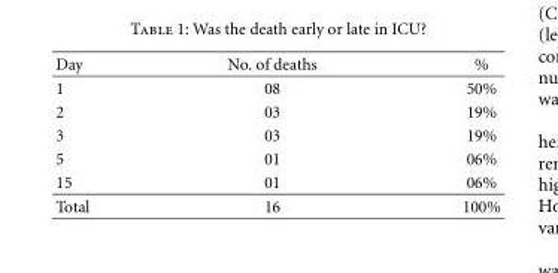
<table><thead><tr><td>Day</td><td>No. of deaths</td><td>%</td></tr></thead><tbody><tr><td>1</td><td>08</td><td>50%</td></tr><tr><td>2</td><td>03</td><td>19%</td></tr><tr><td>3</td><td>03</td><td>19%</td></tr><tr><td>5</td><td>01</td><td>06%</td></tr><tr><td>15</td><td>01</td><td>06%</td></tr><tr><td>Total</td><td>16</td><td>100%</td></tr></tbody></table>